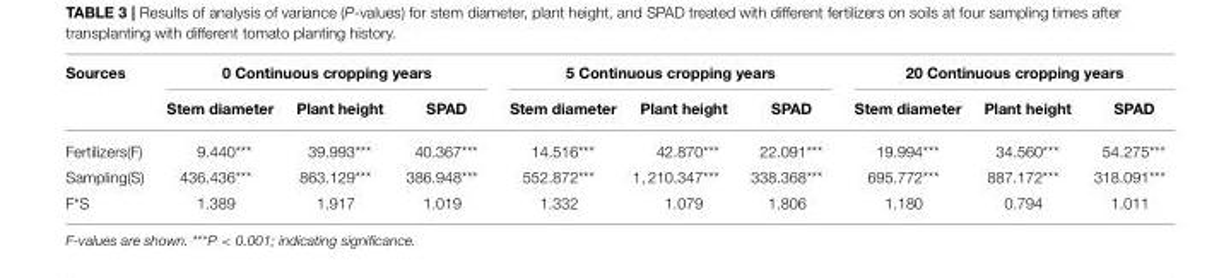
<table><thead><tr><td rowspan="2">Sources</td><td colspan="3">0 Continuous cropping years</td><td colspan="3">5 Continuous cropping years</td><td colspan="3">20 Continuous cropping years</td></tr><tr><td>Stem diameter</td><td>Plant height</td><td>SPAD</td><td>Stem diameter</td><td>Plant height</td><td>SPAD</td><td>Stem diameter</td><td>Plant height</td><td>SPAD</td></tr></thead><tbody><tr><td>Fertilizers(F)</td><td>9.440***</td><td>39.993***</td><td>40.367***</td><td>14.516***</td><td>42.870***</td><td>22.091***</td><td>19.994***</td><td>34.560***</td><td>54.275***</td></tr><tr><td>Sampling(S)</td><td>436.436***</td><td>863.129***</td><td>386.948***</td><td>552.872***</td><td>1, 210.347***</td><td>338.368***</td><td>695.772***</td><td>887.172***</td><td>318.091***</td></tr><tr><td>F*S</td><td>1.389</td><td>1.917</td><td>1.019</td><td>1.332</td><td>1.079</td><td>1.806</td><td>1.180</td><td>0.794</td><td>1.011</td></tr></tbody></table>